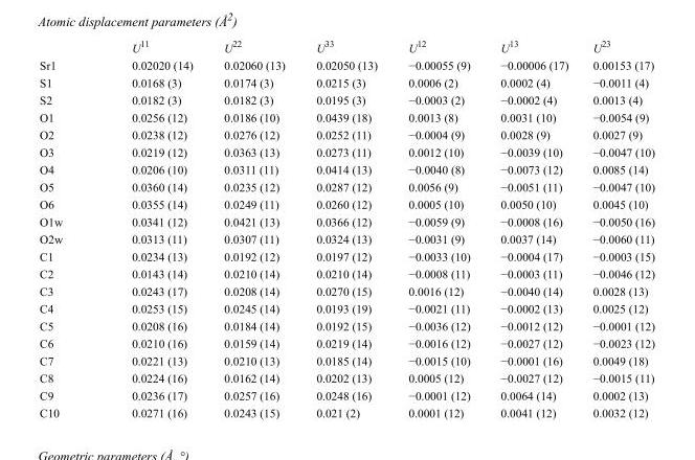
<table><thead><tr><td></td><td>U<sup>11</sup></td><td>U<sup>22</sup></td><td>U<sup>33</sup></td><td>U<sup>12</sup></td><td>U<sup>13</sup></td><td>U<sup>23</sup></td></tr></thead><tbody><tr><td>Sr1</td><td>0.02020 (14)</td><td>0.02060 (13)</td><td>0.02050 (13)</td><td>−0.00055 (9)</td><td>−0.00006 (17)</td><td>0.00153 (17)</td></tr><tr><td>S1</td><td>0.0168 (3)</td><td>0.0174 (3)</td><td>0.0215 (3)</td><td>0.0006 (2)</td><td>0.0002 (4)</td><td>−0.0011 (4)</td></tr><tr><td>S2</td><td>0.0182 (3)</td><td>0.0182 (3)</td><td>0.0195 (3)</td><td>−0.0003 (2)</td><td>−0.0002 (4)</td><td>0.0013 (4)</td></tr><tr><td>O1</td><td>0.0256 (12)</td><td>0.0186 (10)</td><td>0.0439 (18)</td><td>0.0013 (8)</td><td>0.0031 (10)</td><td>−0.0054 (9)</td></tr><tr><td>O2</td><td>0.0238 (12)</td><td>0.0276 (12)</td><td>0.0252 (11)</td><td>−0.0004 (9)</td><td>0.0028 (9)</td><td>0.0027 (9)</td></tr><tr><td>O3</td><td>0.0219 (12)</td><td>0.0363 (13)</td><td>0.0273 (11)</td><td>0.0012 (10)</td><td>−0.0039 (10)</td><td>−0.0047 (10)</td></tr><tr><td>O4</td><td>0.0206 (10)</td><td>0.0311 (11)</td><td>0.0414 (13)</td><td>−0.0040 (8)</td><td>−0.0073 (12)</td><td>0.0085 (14)</td></tr><tr><td>O5</td><td>0.0360 (14)</td><td>0.0235 (12)</td><td>0.0287 (12)</td><td>0.0056 (9)</td><td>−0.0051 (11)</td><td>−0.0047 (10)</td></tr><tr><td>O6</td><td>0.0355 (14)</td><td>0.0249 (11)</td><td>0.0260 (12)</td><td>0.0005 (10)</td><td>0.0050 (10)</td><td>0.0045 (10)</td></tr><tr><td>O1w</td><td>0.0341 (12)</td><td>0.0421 (13)</td><td>0.0366 (12)</td><td>−0.0059 (9)</td><td>−0.0008 (16)</td><td>−0.0050 (16)</td></tr><tr><td>O2w</td><td>0.0313 (11)</td><td>0.0307 (11)</td><td>0.0324 (13)</td><td>−0.0031 (9)</td><td>0.0037 (14)</td><td>−0.0060 (11)</td></tr><tr><td>C1</td><td>0.0234 (13)</td><td>0.0192 (12)</td><td>0.0197 (12)</td><td>−0.0033 (10)</td><td>−0.0004 (17)</td><td>−0.0003 (15)</td></tr><tr><td>C2</td><td>0.0143 (14)</td><td>0.0210 (14)</td><td>0.0210 (14)</td><td>−0.0008 (11)</td><td>−0.0003 (11)</td><td>−0.0046 (12)</td></tr><tr><td>C3</td><td>0.0243 (17)</td><td>0.0208 (14)</td><td>0.0270 (15)</td><td>0.0016 (12)</td><td>−0.0040 (14)</td><td>0.0028 (13)</td></tr><tr><td>C4</td><td>0.0253 (15)</td><td>0.0245 (14)</td><td>0.0193 (19)</td><td>−0.0021 (11)</td><td>−0.0002 (13)</td><td>0.0025 (12)</td></tr><tr><td>C5</td><td>0.0208 (16)</td><td>0.0184 (14)</td><td>0.0192 (15)</td><td>−0.0036 (12)</td><td>−0.0012 (12)</td><td>−0.0001 (12)</td></tr><tr><td>C6</td><td>0.0210 (16)</td><td>0.0159 (14)</td><td>0.0219 (14)</td><td>−0.0016 (12)</td><td>−0.0027 (12)</td><td>−0.0023 (12)</td></tr><tr><td>C7</td><td>0.0221 (13)</td><td>0.0210 (13)</td><td>0.0185 (14)</td><td>−0.0015 (10)</td><td>−0.0001 (16)</td><td>0.0049 (18)</td></tr><tr><td>C8</td><td>0.0224 (16)</td><td>0.0162 (14)</td><td>0.0202 (13)</td><td>0.0005 (12)</td><td>−0.0027 (12)</td><td>−0.0015 (11)</td></tr><tr><td>C9</td><td>0.0236 (17)</td><td>0.0257 (16)</td><td>0.0248 (16)</td><td>−0.0001 (12)</td><td>0.0064 (14)</td><td>0.0002 (13)</td></tr><tr><td>C10</td><td>0.0271 (16)</td><td>0.0243 (15)</td><td>0.021 (2)</td><td>0.0001 (12)</td><td>0.0041 (12)</td><td>0.0032 (12)</td></tr></tbody></table>